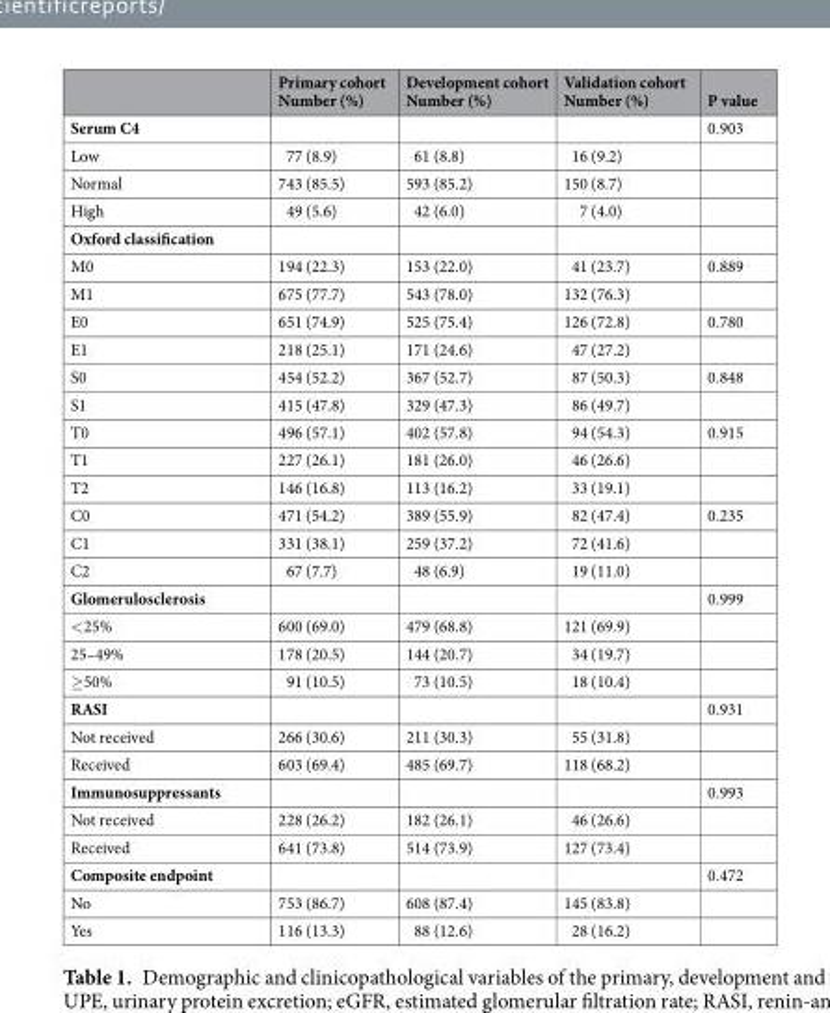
<table><thead><tr><td></td><td>Primary cohort Number (%)</td><td>Development cohort Number (%)</td><td>Validation cohort Number (%)</td><td>P value</td></tr></thead><tbody><tr><td>Serum C4</td><td></td><td></td><td></td><td>0.903</td></tr><tr><td>Low</td><td>77 (8.9)</td><td>61 (8.8)</td><td>16 (9.2)</td><td></td></tr><tr><td>Normal</td><td>743 (85.5)</td><td>593 (85.2)</td><td>150 (8.7)</td><td></td></tr><tr><td>High</td><td>49 (5.6)</td><td>42 (6.0)</td><td>7 (4.0)</td><td></td></tr><tr><td colspan="5">Oxford classification</td></tr><tr><td>M0</td><td>194 (22.3)</td><td>153 (22.0)</td><td>41 (23.7)</td><td>0.889</td></tr><tr><td>M1</td><td>675 (77.7)</td><td>543 (78.0)</td><td>132 (76.3)</td><td></td></tr><tr><td>E0</td><td>651 (74.9)</td><td>525 (75.4)</td><td>126 (72.8)</td><td>0.780</td></tr><tr><td>E1</td><td>218 (25.1)</td><td>171 (24.6)</td><td>47 (27.2)</td><td></td></tr><tr><td>S0</td><td>454 (52.2)</td><td>367 (52.7)</td><td>87 (50.3)</td><td>0.848</td></tr><tr><td>S1</td><td>415 (47.8)</td><td>329 (47.3)</td><td>86 (49.7)</td><td></td></tr><tr><td>T0</td><td>496 (57.1)</td><td>402 (57.8)</td><td>94 (54.3)</td><td>0.915</td></tr><tr><td>T1</td><td>227 (26.1)</td><td>181 (26.0)</td><td>46 (26.6)</td><td></td></tr><tr><td>T2</td><td>146 (16.8)</td><td>113 (16.2)</td><td>33 (19.1)</td><td></td></tr><tr><td>C0</td><td>471 (54.2)</td><td>389 (55.9)</td><td>82 (47.4)</td><td>0.235</td></tr><tr><td>C1</td><td>331 (38.1)</td><td>259 (37.2)</td><td>72 (41.6)</td><td></td></tr><tr><td>C2</td><td>67 (7.7)</td><td>48 (6.9)</td><td>19 (11.0)</td><td></td></tr><tr><td>Glomerulosclerosis</td><td></td><td></td><td></td><td>0.999</td></tr><tr><td>&lt;25%</td><td>600 (69.0)</td><td>479 (68.8)</td><td>121 (69.9)</td><td></td></tr><tr><td>25–49%</td><td>178 (20.5)</td><td>144 (20.7)</td><td>34 (19.7)</td><td></td></tr><tr><td>≥50%</td><td>91 (10.5)</td><td>73 (10.5)</td><td>18 (10.4)</td><td></td></tr><tr><td>RASI</td><td></td><td></td><td></td><td>0.931</td></tr><tr><td>Not received</td><td>266 (30.6)</td><td>211 (30.3)</td><td>55 (31.8)</td><td></td></tr><tr><td>Received</td><td>603 (69.4)</td><td>485 (69.7)</td><td>118 (68.2)</td><td></td></tr><tr><td>Immunosuppressants</td><td></td><td></td><td></td><td>0.993</td></tr><tr><td>Not received</td><td>228 (26.2)</td><td>182 (26.1)</td><td>46 (26.6)</td><td></td></tr><tr><td>Received</td><td>641 (73.8)</td><td>514 (73.9)</td><td>127 (73.4)</td><td></td></tr><tr><td>Composite endpoint</td><td></td><td></td><td></td><td>0.472</td></tr><tr><td>No</td><td>753 (86.7)</td><td>608 (87.4)</td><td>145 (83.8)</td><td></td></tr><tr><td>Yes</td><td>116 (13.3)</td><td>88 (12.6)</td><td>28 (16.2)</td><td></td></tr></tbody></table>